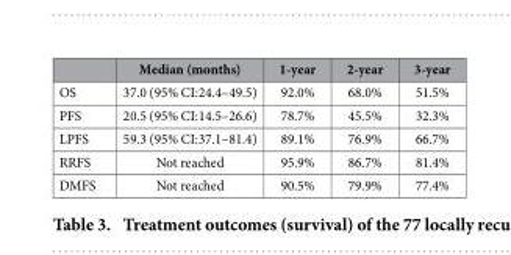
<table><thead><tr><td></td><td>Median (months)</td><td>1-year</td><td>2-year</td><td>3-year</td></tr></thead><tbody><tr><td>OS</td><td>37.0 (95% CI:24.4–49.5)</td><td>92.0%</td><td>68.0%</td><td>51.5%</td></tr><tr><td>PFS</td><td>20.5 (95% CI:14.5–26.6)</td><td>78.7%</td><td>45.5%</td><td>32.3%</td></tr><tr><td>LPFS</td><td>59.3 (95% CI:37.1–81.4)</td><td>89.1%</td><td>76.9%</td><td>66.7%</td></tr><tr><td>RRFS</td><td>Not reached</td><td>95.9%</td><td>86.7%</td><td>81.4%</td></tr><tr><td>DMFS</td><td>Not reached</td><td>90.5%</td><td>79.9%</td><td>77.4%</td></tr></tbody></table>